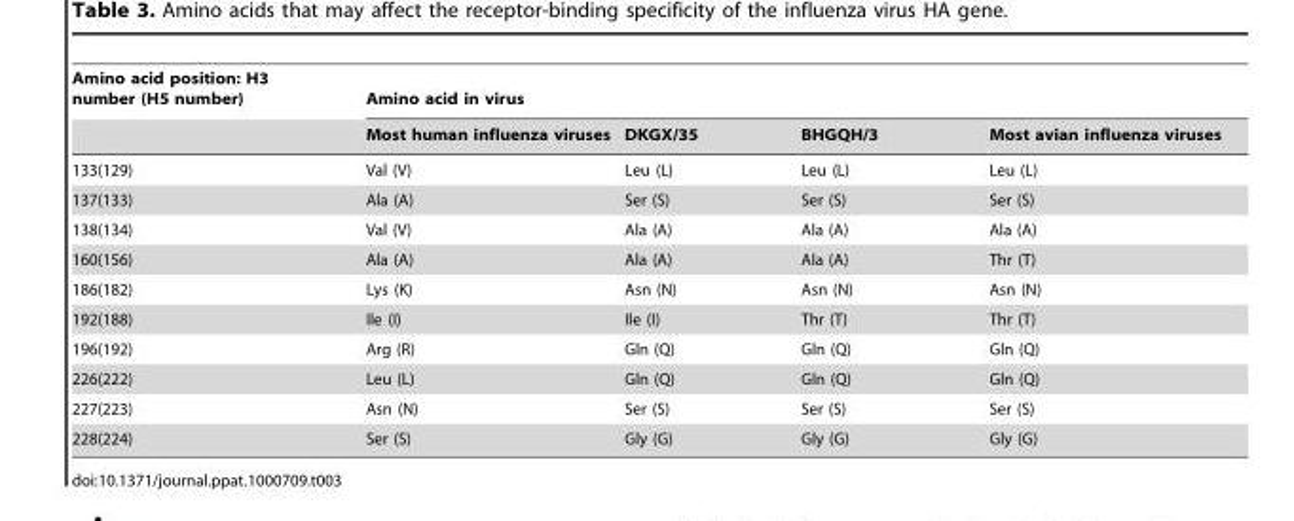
<table><thead><tr><td rowspan="2">Amino acid position: H3 number (H5 number)</td><td colspan="4">Amino acid in virus</td></tr><tr><td>Most human influenza viruses</td><td>DKGX/35</td><td>BHGQH/3</td><td>Most avian influenza viruses</td></tr></thead><tbody><tr><td>133(129)</td><td>Val (V)</td><td>Leu (L)</td><td>Leu (L)</td><td>Leu (L)</td></tr><tr><td>137(133)</td><td>Ala (A)</td><td>Ser (S)</td><td>Ser (S)</td><td>Ser (S)</td></tr><tr><td>138(134)</td><td>Val (V)</td><td>Ala (A)</td><td>Ala (A)</td><td>Ala (A)</td></tr><tr><td>160(156)</td><td>Ala (A)</td><td>Ala (A)</td><td>Ala (A)</td><td>Thr (T)</td></tr><tr><td>186(182)</td><td>Lys (K)</td><td>Asn (N)</td><td>Asn (N)</td><td>Asn (N)</td></tr><tr><td>192(188)</td><td>Ile (I)</td><td>Ile (I)</td><td>Thr (T)</td><td>Thr (T)</td></tr><tr><td>196(192)</td><td>Arg (R)</td><td>Gln (Q)</td><td>Gln (Q)</td><td>Gln (Q)</td></tr><tr><td>226(222)</td><td>Leu (L)</td><td>Gln (Q)</td><td>Gln (Q)</td><td>Gln (Q)</td></tr><tr><td>227(223)</td><td>Asn (N)</td><td>Ser (S)</td><td>Ser (S)</td><td>Ser (S)</td></tr><tr><td>228(224)</td><td>Ser (S)</td><td>Gly (G)</td><td>Gly (G)</td><td>Gly (G)</td></tr></tbody></table>